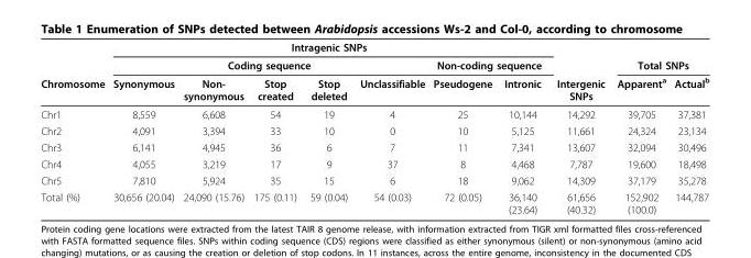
<table><thead><tr><td rowspan="3">Chromosome</td><td colspan="7">Intragenic SNPs</td><td rowspan="3">Intergenic SNPs</td><td></td><td></td></tr><tr><td colspan="5">Coding sequence</td><td colspan="2">Non-coding sequence</td><td colspan="2">Total SNPs</td></tr><tr><td>Synonymous</td><td>Non- synonymous</td><td>Stop created</td><td>Stop deleted</td><td>Unclassifiable</td><td>Pseudogene</td><td>Intronic</td><td>Apparent<sup>a</sup></td><td>Actual<sup>b</sup></td></tr></thead><tbody><tr><td>Chr1</td><td>8,559</td><td>6,608</td><td>54</td><td>19</td><td>4</td><td>25</td><td>10,144</td><td>14,292</td><td>39,705</td><td>37,381</td></tr><tr><td>Chr2</td><td>4,091</td><td>3,394</td><td>33</td><td>10</td><td>0</td><td>10</td><td>5,125</td><td>11,661</td><td>24,324</td><td>23,134</td></tr><tr><td>Chr3</td><td>6,141</td><td>4,945</td><td>36</td><td>6</td><td>7</td><td>11</td><td>7,341</td><td>13,607</td><td>32,094</td><td>30,496</td></tr><tr><td>Chr4</td><td>4,055</td><td>3,219</td><td>17</td><td>9</td><td>37</td><td>8</td><td>4,468</td><td>7,787</td><td>19,600</td><td>18,498</td></tr><tr><td>Chr5</td><td>7,810</td><td>5,924</td><td>35</td><td>15</td><td>6</td><td>18</td><td>9,062</td><td>14,309</td><td>37,179</td><td>35,278</td></tr><tr><td>Total (%)</td><td>30,656 (20.04)</td><td>24,090 (15.76)</td><td>175 (0.11)</td><td>59 (0.04)</td><td>54 (0.03)</td><td>72 (0.05)</td><td>36,140 (23.64)</td><td>61,656 (40.32)</td><td>152,902 (100.0)</td><td>144,787</td></tr></tbody></table>